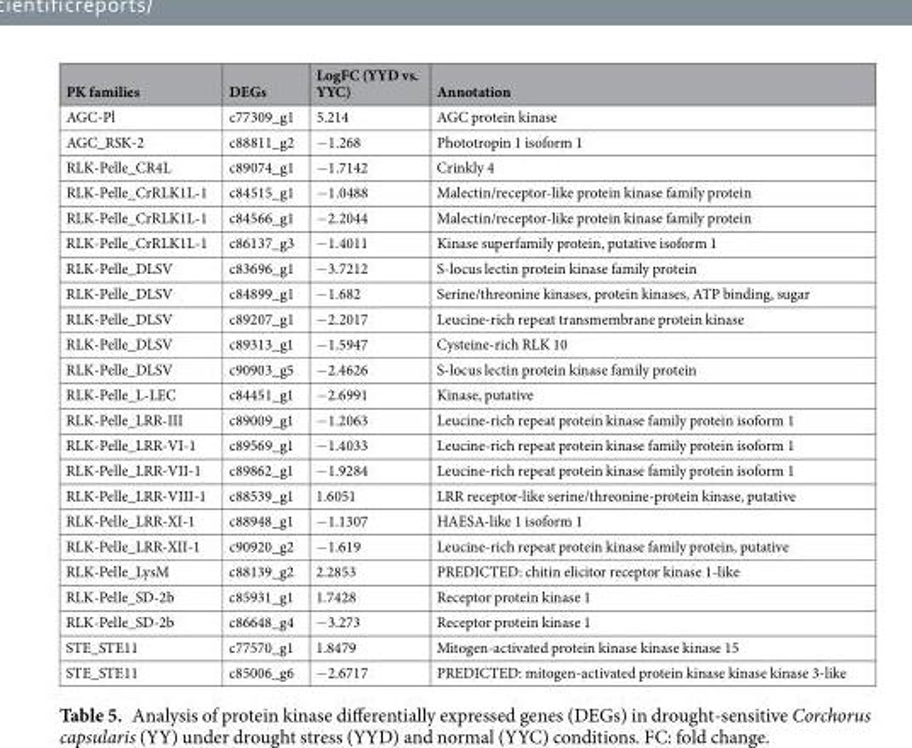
<table><thead><tr><td>PK families</td><td>DEGs</td><td>LogFC (YYD vs. YYC)</td><td>Annotation</td></tr></thead><tbody><tr><td>AGC-Pl</td><td>c77309_g1</td><td>5.214</td><td>AGC protein kinase</td></tr><tr><td>AGC_RSK-2</td><td>c88811_g2</td><td>−1.268</td><td>Phototropin 1 isoform 1</td></tr><tr><td>RLK-Pelle_CR4L</td><td>c89074_g1</td><td>−1.7142</td><td>Crinkly 4</td></tr><tr><td>RLK-Pelle_CrRLK1L-1</td><td>c84515_g1</td><td>−1.0488</td><td>Malectin/receptor-like protein kinase family protein</td></tr><tr><td>RLK-Pelle_CrRLK1L-1</td><td>c84566_g1</td><td>−2.2044</td><td>Malectin/receptor-like protein kinase family protein</td></tr><tr><td>RLK-Pelle_CrRLK1L-1</td><td>c86137_g3</td><td>−1.4011</td><td>Kinase superfamily protein, putative isoform 1</td></tr><tr><td>RLK-Pelle_DLSV</td><td>c83696_g1</td><td>−3.7212</td><td>S-locus lectin protein kinase family protein</td></tr><tr><td>RLK-Pelle_DLSV</td><td>c84899_g1</td><td>−1.682</td><td>Serine/threonine kinases, protein kinases, ATP binding, sugar</td></tr><tr><td>RLK-Pelle_DLSV</td><td>c89207_g1</td><td>−2.2017</td><td>Leucine-rich repeat transmembrane protein kinase</td></tr><tr><td>RLK-Pelle_DLSV</td><td>c89313_g1</td><td>−1.5947</td><td>Cysteine-rich RLK 10</td></tr><tr><td>RLK-Pelle_DLSV</td><td>c90903_g5</td><td>−2.4626</td><td>S-locus lectin protein kinase family protein</td></tr><tr><td>RLK-Pelle_L-LEC</td><td>c84451_g1</td><td>−2.6991</td><td>Kinase, putative</td></tr><tr><td>RLK-Pelle_LRR-III</td><td>c89009_g1</td><td>−1.2063</td><td>Leucine-rich repeat protein kinase family protein isoform 1</td></tr><tr><td>RLK-Pelle_LRR-VI-1</td><td>c89569_g1</td><td>−1.4033</td><td>Leucine-rich repeat protein kinase family protein isoform 1</td></tr><tr><td>RLK-Pelle_LRR-VII-1</td><td>c89862_g1</td><td>−1.9284</td><td>Leucine-rich repeat protein kinase family protein isoform 1</td></tr><tr><td>RLK-Pelle_LRR-VIII-1</td><td>c88539_g1</td><td>1.6051</td><td>LRR receptor-like serine/threonine-protein kinase, putative</td></tr><tr><td>RLK-Pelle_LRR-XI-1</td><td>c88948_g1</td><td>−1.1307</td><td>HAESA-like 1 isoform 1</td></tr><tr><td>RLK-Pelle_LRR-XII-1</td><td>c90920_g2</td><td>−1.619</td><td>Leucine-rich repeat protein kinase family protein, putative</td></tr><tr><td>RLK-Pelle_LysM</td><td>c88139_g2</td><td>2.2853</td><td>PREDICTED: chitin elicitor receptor kinase 1-like</td></tr><tr><td>RLK-Pelle_SD-2b</td><td>c85931_g1</td><td>1.7428</td><td>Receptor protein kinase 1</td></tr><tr><td>RLK-Pelle_SD-2b</td><td>c86648_g4</td><td>−3.273</td><td>Receptor protein kinase 1</td></tr><tr><td>STE_STE11</td><td>c77570_g1</td><td>1.8479</td><td>Mitogen-activated protein kinase kinase kinase 15</td></tr><tr><td>STE_STE11</td><td>c85006_g6</td><td>−2.6717</td><td>PREDICTED: mitogen-activated protein kinase kinase kinase 3-like</td></tr></tbody></table>